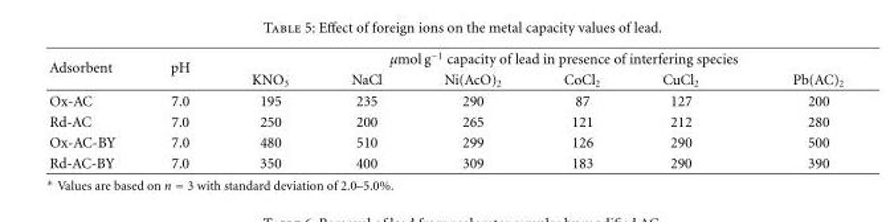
<table><thead><tr><td rowspan="2">Adsorbent</td><td rowspan="2">pH</td><td colspan="6">μmol g<sup>−1</sup> capacity of lead in presence of interfering species</td></tr><tr><td>KNO<sub>3</sub></td><td>NaCl</td><td>Ni(AcO)<sub>2</sub></td><td>CoCl<sub>2</sub></td><td>CuCl<sub>2</sub></td><td>Pb(AC)<sub>2</sub></td></tr></thead><tbody><tr><td>Ox-AC</td><td>7.0</td><td>195</td><td>235</td><td>290</td><td>87</td><td>127</td><td>200</td></tr><tr><td>Rd-AC</td><td>7.0</td><td>250</td><td>200</td><td>265</td><td>121</td><td>212</td><td>280</td></tr><tr><td>Ox-AC-BY</td><td>7.0</td><td>480</td><td>510</td><td>299</td><td>126</td><td>290</td><td>500</td></tr><tr><td>Rd-AC-BY</td><td>7.0</td><td>350</td><td>400</td><td>309</td><td>183</td><td>290</td><td>390</td></tr></tbody></table>